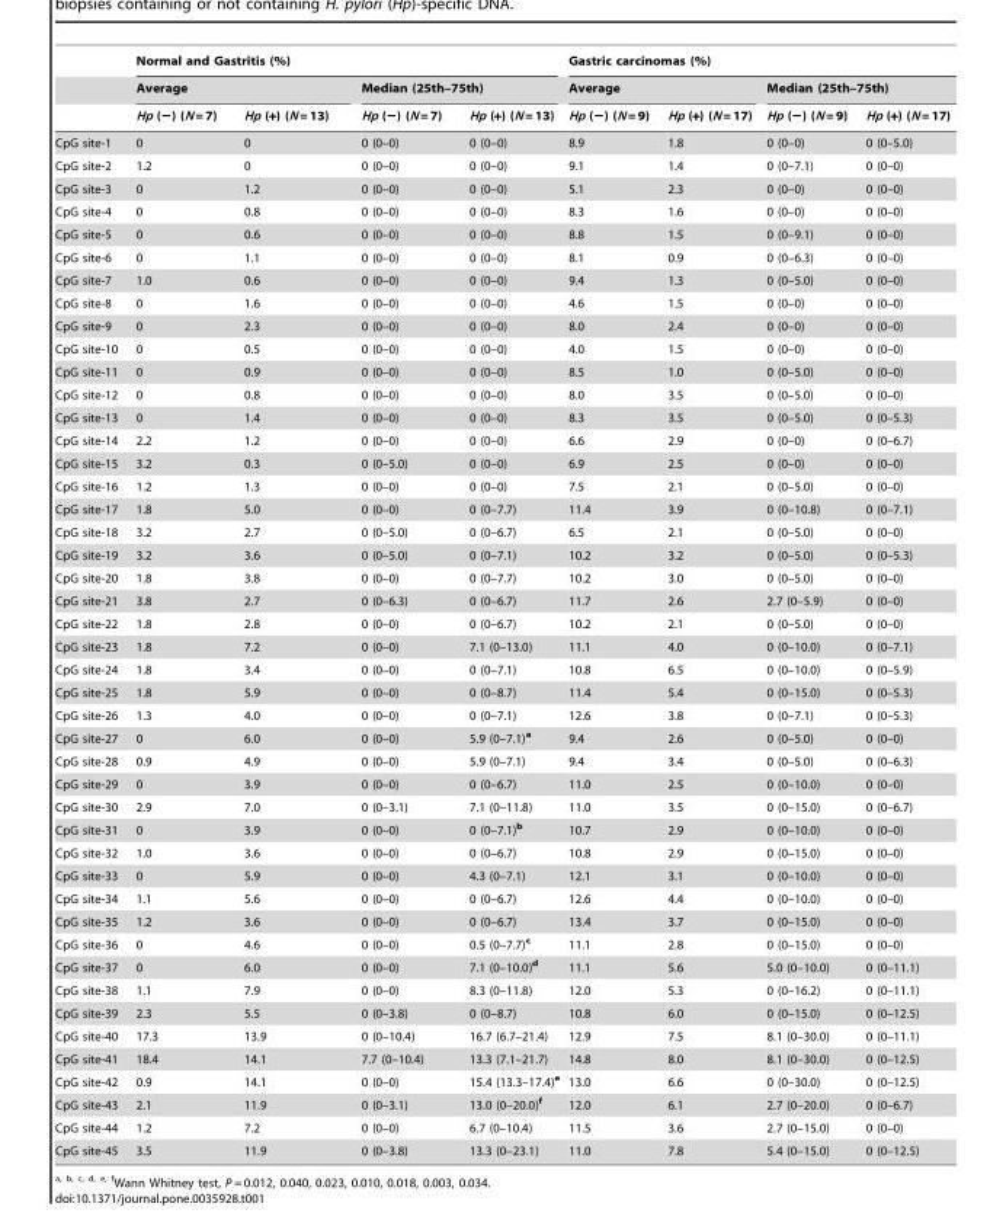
<table><thead><tr><td rowspan="3"></td><td colspan="4">Normal and Gastritis (%)</td><td colspan="4">Gastric carcinomas (%)</td></tr><tr><td colspan="2">Average</td><td colspan="2">Median (25th–75th)</td><td colspan="2">Average</td><td colspan="2">Median (25th–75th)</td></tr><tr><td>Hp (−) (N = 7)</td><td>Hp (+) (N = 13)</td><td>Hp (−) (N = 7)</td><td>Hp (+) (N = 13)</td><td>Hp (−) (N = 9)</td><td>Hp (+) (N = 17)</td><td>Hp (−) (N = 9)</td><td>Hp (+) (N = 17)</td></tr></thead><tbody><tr><td>CpG site-1</td><td>0</td><td>0</td><td>0 (0–0)</td><td>0 (0–0)</td><td>8.9</td><td>1.8</td><td>0 (0–0)</td><td>0 (0–5.0)</td></tr><tr><td>CpG site-2</td><td>1.2</td><td>0</td><td>0 (0–0)</td><td>0 (0–0)</td><td>9.1</td><td>1.4</td><td>0 (0–7.1)</td><td>0 (0–0)</td></tr><tr><td>CpG site-3</td><td>0</td><td>1.2</td><td>0 (0–0)</td><td>0 (0–0)</td><td>5.1</td><td>2.3</td><td>0 (0–0)</td><td>0 (0–0)</td></tr><tr><td>CpG site-4</td><td>0</td><td>0.8</td><td>0 (0–0)</td><td>0 (0–0)</td><td>8.3</td><td>1.6</td><td>0 (0–0)</td><td>0 (0–0)</td></tr><tr><td>CpG site-5</td><td>0</td><td>0.6</td><td>0 (0–0)</td><td>0 (0–0)</td><td>8.8</td><td>1.5</td><td>0 (0–9.1)</td><td>0 (0–0)</td></tr><tr><td>CpG site-6</td><td>0</td><td>1.1</td><td>0 (0–0)</td><td>0 (0–0)</td><td>8.1</td><td>0.9</td><td>0 (0–6.3)</td><td>0 (0–0)</td></tr><tr><td>CpG site-7</td><td>1.0</td><td>0.6</td><td>0 (0–0)</td><td>0 (0–0)</td><td>9.4</td><td>1.3</td><td>0 (0–5.0)</td><td>0 (0–0)</td></tr><tr><td>CpG site-8</td><td>0</td><td>1.6</td><td>0 (0–0)</td><td>0 (0–0)</td><td>4.6</td><td>1.5</td><td>0 (0–0)</td><td>0 (0–0)</td></tr><tr><td>CpG site-9</td><td>0</td><td>2.3</td><td>0 (0–0)</td><td>0 (0–0)</td><td>8.0</td><td>2.4</td><td>0 (0–0)</td><td>0 (0–0)</td></tr><tr><td>CpG site-10</td><td>0</td><td>0.5</td><td>0 (0–0)</td><td>0 (0–0)</td><td>4.0</td><td>1.5</td><td>0 (0–0)</td><td>0 (0–0)</td></tr><tr><td>CpG site-11</td><td>0</td><td>0.9</td><td>0 (0–0)</td><td>0 (0–0)</td><td>8.5</td><td>1.0</td><td>0 (0–5.0)</td><td>0 (0–0)</td></tr><tr><td>CpG site-12</td><td>0</td><td>0.8</td><td>0 (0–0)</td><td>0 (0–0)</td><td>8.0</td><td>3.5</td><td>0 (0–5.0)</td><td>0 (0–0)</td></tr><tr><td>CpG site-13</td><td>0</td><td>1.4</td><td>0 (0–0)</td><td>0 (0–0)</td><td>8.3</td><td>3.5</td><td>0 (0–5.0)</td><td>0 (0–5.3)</td></tr><tr><td>CpG site-14</td><td>2.2</td><td>1.2</td><td>0 (0–0)</td><td>0 (0–0)</td><td>6.6</td><td>2.9</td><td>0 (0–0)</td><td>0 (0–6.7)</td></tr><tr><td>CpG site-15</td><td>3.2</td><td>0.3</td><td>0 (0–5.0)</td><td>0 (0–0)</td><td>6.9</td><td>2.5</td><td>0 (0–0)</td><td>0 (0–0)</td></tr><tr><td>CpG site-16</td><td>1.2</td><td>1.3</td><td>0 (0–0)</td><td>0 (0–0)</td><td>7.5</td><td>2.1</td><td>0 (0–5.0)</td><td>0 (0–0)</td></tr><tr><td>CpG site-17</td><td>1.8</td><td>5.0</td><td>0 (0–0)</td><td>0 (0–7.7)</td><td>11.4</td><td>3.9</td><td>0 (0–10.8)</td><td>0 (0–7.1)</td></tr><tr><td>CpG site-18</td><td>3.2</td><td>2.7</td><td>0 (0–5.0)</td><td>0 (0–6.7)</td><td>6.5</td><td>2.1</td><td>0 (0–5.0)</td><td>0 (0–0)</td></tr><tr><td>CpG site-19</td><td>3.2</td><td>3.6</td><td>0 (0–5.0)</td><td>0 (0–7.1)</td><td>10.2</td><td>3.2</td><td>0 (0–5.0)</td><td>0 (0–5.3)</td></tr><tr><td>CpG site-20</td><td>1.8</td><td>3.8</td><td>0 (0–0)</td><td>0 (0–7.7)</td><td>10.2</td><td>3.0</td><td>0 (0–5.0)</td><td>0 (0–0)</td></tr><tr><td>CpG site-21</td><td>3.8</td><td>2.7</td><td>0 (0–6.3)</td><td>0 (0–6.7)</td><td>11.7</td><td>2.6</td><td>2.7 (0–5.9)</td><td>0 (0–0)</td></tr><tr><td>CpG site-22</td><td>1.8</td><td>2.8</td><td>0 (0–0)</td><td>0 (0–6.7)</td><td>10.2</td><td>2.1</td><td>0 (0–5.0)</td><td>0 (0–0)</td></tr><tr><td>CpG site-23</td><td>1.8</td><td>7.2</td><td>0 (0–0)</td><td>7.1 (0–13.0)</td><td>11.1</td><td>4.0</td><td>0 (0–10.0)</td><td>0 (0–7.1)</td></tr><tr><td>CpG site-24</td><td>1.8</td><td>3.4</td><td>0 (0–0)</td><td>0 (0–7.1)</td><td>10.8</td><td>6.5</td><td>0 (0–10.0)</td><td>0 (0–5.9)</td></tr><tr><td>CpG site-25</td><td>1.8</td><td>5.9</td><td>0 (0–0)</td><td>0 (0–8.7)</td><td>11.4</td><td>5.4</td><td>0 (0–15.0)</td><td>0 (0–5.3)</td></tr><tr><td>CpG site-26</td><td>1.3</td><td>4.0</td><td>0 (0–0)</td><td>0 (0–7.1)</td><td>12.6</td><td>3.8</td><td>0 (0–7.1)</td><td>0 (0–5.3)</td></tr><tr><td>CpG site-27</td><td>0</td><td>6.0</td><td>0 (0–0)</td><td>5.9 (0–7.1)<sup>a</sup></td><td>9.4</td><td>2.6</td><td>0 (0–5.0)</td><td>0 (0–0)</td></tr><tr><td>CpG site-28</td><td>0.9</td><td>4.9</td><td>0 (0–0)</td><td>5.9 (0–7.1)</td><td>9.4</td><td>3.4</td><td>0 (0–5.0)</td><td>0 (0–6.3)</td></tr><tr><td>CpG site-29</td><td>0</td><td>3.9</td><td>0 (0–0)</td><td>0 (0–6.7)</td><td>11.0</td><td>2.5</td><td>0 (0–10.0)</td><td>0 (0–0)</td></tr><tr><td>CpG site-30</td><td>2.9</td><td>7.0</td><td>0 (0–3.1)</td><td>7.1 (0–11.8)</td><td>11.0</td><td>3.5</td><td>0 (0–15.0)</td><td>0 (0–6.7)</td></tr><tr><td>CpG site-31</td><td>0</td><td>3.9</td><td>0 (0–0)</td><td>0 (0–7.1)<sup>b</sup></td><td>10.7</td><td>2.9</td><td>0 (0–10.0)</td><td>0 (0–0)</td></tr><tr><td>CpG site-32</td><td>1.0</td><td>3.6</td><td>0 (0–0)</td><td>0 (0–6.7)</td><td>10.8</td><td>2.9</td><td>0 (0–15.0)</td><td>0 (0–0)</td></tr><tr><td>CpG site-33</td><td>0</td><td>5.9</td><td>0 (0–0)</td><td>4.3 (0–7.1)</td><td>12.1</td><td>3.1</td><td>0 (0–10.0)</td><td>0 (0–0)</td></tr><tr><td>CpG site-34</td><td>1.1</td><td>5.6</td><td>0 (0–0)</td><td>0 (0–6.7)</td><td>12.6</td><td>4.4</td><td>0 (0–10.0)</td><td>0 (0–0)</td></tr><tr><td>CpG site-35</td><td>1.2</td><td>3.6</td><td>0 (0–0)</td><td>0 (0–6.7)</td><td>13.4</td><td>3.7</td><td>0 (0–15.0)</td><td>0 (0–0)</td></tr><tr><td>CpG site-36</td><td>0</td><td>4.6</td><td>0 (0–0)</td><td>0.5 (0–7.7)<sup>c</sup></td><td>11.1</td><td>2.8</td><td>0 (0–15.0)</td><td>0 (0–0)</td></tr><tr><td>CpG site-37</td><td>0</td><td>6.0</td><td>0 (0–0)</td><td>7.1 (0–10.0)<sup>d</sup></td><td>11.1</td><td>5.6</td><td>5.0 (0–10.0)</td><td>0 (0–11.1)</td></tr><tr><td>CpG site-38</td><td>1.1</td><td>7.9</td><td>0 (0–0)</td><td>8.3 (0–11.8)</td><td>12.0</td><td>5.3</td><td>0 (0–16.2)</td><td>0 (0–11.1)</td></tr><tr><td>CpG site-39</td><td>2.3</td><td>5.5</td><td>0 (0–3.8)</td><td>0 (0–8.7)</td><td>10.8</td><td>6.0</td><td>0 (0–15.0)</td><td>0 (0–12.5)</td></tr><tr><td>CpG site-40</td><td>17.3</td><td>13.9</td><td>0 (0–10.4)</td><td>16.7 (6.7–21.4)</td><td>12.9</td><td>7.5</td><td>8.1 (0–30.0)</td><td>0 (0–11.1)</td></tr><tr><td>CpG site-41</td><td>18.4</td><td>14.1</td><td>7.7 (0–10.4)</td><td>13.3 (7.1–21.7)</td><td>14.8</td><td>8.0</td><td>8.1 (0–30.0)</td><td>0 (0–12.5)</td></tr><tr><td>CpG site-42</td><td>0.9</td><td>14.1</td><td>0 (0–0)</td><td>15.4 (13.3–17.4)<sup>e</sup></td><td>13.0</td><td>6.6</td><td>0 (0–30.0)</td><td>0 (0–12.5)</td></tr><tr><td>CpG site-43</td><td>2.1</td><td>11.9</td><td>0 (0–3.1)</td><td>13.0 (0–20.0)<sup>f</sup></td><td>12.0</td><td>6.1</td><td>2.7 (0–20.0)</td><td>0 (0–6.7)</td></tr><tr><td>CpG site-44</td><td>1.2</td><td>7.2</td><td>0 (0–0)</td><td>6.7 (0–10.4)</td><td>11.5</td><td>3.6</td><td>2.7 (0–15.0)</td><td>0 (0–0)</td></tr><tr><td>CpG site-45</td><td>3.5</td><td>11.9</td><td>0 (0–3.8)</td><td>13.3 (0–23.1)</td><td>11.0</td><td>7.8</td><td>5.4 (0–15.0)</td><td>0 (0–12.5)</td></tr></tbody></table>